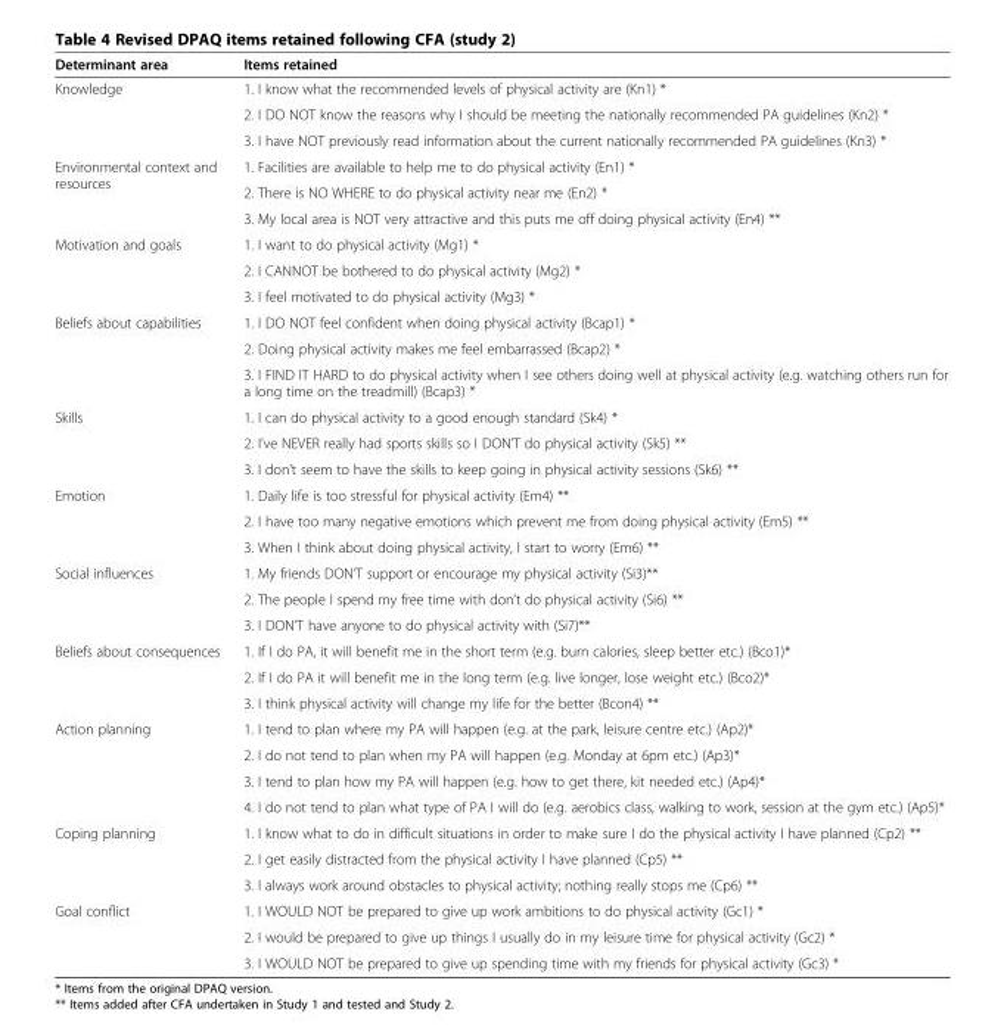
<table><thead><tr><td>Determinant area</td><td>Items retained</td></tr></thead><tbody><tr><td rowspan="3">Knowledge</td><td>1. I know what the recommended levels of physical activity are (Kn1) *</td></tr><tr><td>2. I DO NOT know the reasons why I should be meeting the nationally recommended PA guidelines (Kn2) *</td></tr><tr><td>3. I have NOT previously read information about the current nationally recommended PA guidelines (Kn3) *</td></tr><tr><td rowspan="3">Environmental context and resources</td><td>1. Facilities are available to help me to do physical activity (En1) *</td></tr><tr><td>2. There is NO WHERE to do physical activity near me (En2) *</td></tr><tr><td>3. My local area is NOT very attractive and this puts me off doing physical activity (En4) **</td></tr><tr><td rowspan="3">Motivation and goals</td><td>1. I want to do physical activity (Mg1) *</td></tr><tr><td>2. I CANNOT be bothered to do physical activity (Mg2) *</td></tr><tr><td>3. I feel motivated to do physical activity (Mg3) *</td></tr><tr><td rowspan="3">Beliefs about capabilities</td><td>1. I DO NOT feel confident when doing physical activity (Bcap1) *</td></tr><tr><td>2. Doing physical activity makes me feel embarrassed (Bcap2) *</td></tr><tr><td>3. I FIND IT HARD to do physical activity when I see others doing well at physical activity (e.g. watching others run for a long time on the treadmill) (Bcap3) *</td></tr><tr><td rowspan="3">Skills</td><td>1. I can do physical activity to a good enough standard (Sk4) *</td></tr><tr><td>2. I’ve NEVER really had sports skills so I DON’T do physical activity (Sk5) **</td></tr><tr><td>3. I don’t seem to have the skills to keep going in physical activity sessions (Sk6) **</td></tr><tr><td rowspan="3">Emotion</td><td>1. Daily life is too stressful for physical activity (Em4) **</td></tr><tr><td>2. I have too many negative emotions which prevent me from doing physical activity (Em5) **</td></tr><tr><td>3. When I think about doing physical activity, I start to worry (Em6) **</td></tr><tr><td rowspan="3">Social influences</td><td>1. My friends DON’T support or encourage my physical activity (Si3)**</td></tr><tr><td>2. The people I spend my free time with don’t do physical activity (Si6) **</td></tr><tr><td>3. I DON’T have anyone to do physical activity with (Si7)**</td></tr><tr><td rowspan="3">Beliefs about consequences</td><td>1. If I do PA, it will benefit me in the short term (e.g. burn calories, sleep better etc.) (Bco1)*</td></tr><tr><td>2. If I do PA it will benefit me in the long term (e.g. live longer, lose weight etc.) (Bco2)*</td></tr><tr><td>3. I think physical activity will change my life for the better (Bcon4) **</td></tr><tr><td rowspan="4">Action planning</td><td>1. I tend to plan where my PA will happen (e.g. at the park, leisure centre etc.) (Ap2)*</td></tr><tr><td>2. I do not tend to plan when my PA will happen (e.g. Monday at 6pm etc.) (Ap3)*</td></tr><tr><td>3. I tend to plan how my PA will happen (e.g. how to get there, kit needed etc.) (Ap4)*</td></tr><tr><td>4. I do not tend to plan what type of PA I will do (e.g. aerobics class, walking to work, session at the gym etc.) (Ap5)*</td></tr><tr><td rowspan="3">Coping planning</td><td>1. I know what to do in difficult situations in order to make sure I do the physical activity I have planned (Cp2) **</td></tr><tr><td>2. I get easily distracted from the physical activity I have planned (Cp5) **</td></tr><tr><td>3. I always work around obstacles to physical activity; nothing really stops me (Cp6) **</td></tr><tr><td rowspan="3">Goal conflict</td><td>1. I WOULD NOT be prepared to give up work ambitions to do physical activity (Gc1) *</td></tr><tr><td>2. I would be prepared to give up things I usually do in my leisure time for physical activity (Gc2) *</td></tr><tr><td>3. I WOULD NOT be prepared to give up spending time with my friends for physical activity (Gc3) *</td></tr></tbody></table>